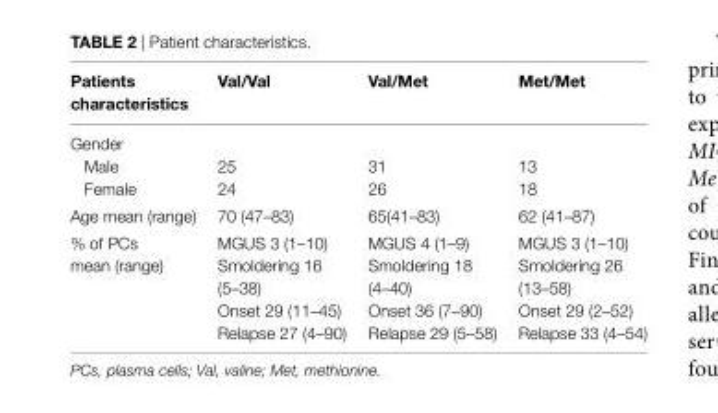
<table><thead><tr><td>Patients characteristics</td><td>Val/Val</td><td>Val/Met</td><td>Met/Met</td></tr></thead><tbody><tr><td colspan="4">Gender</td></tr><tr><td>Male</td><td>25</td><td>31</td><td>13</td></tr><tr><td>Female</td><td>24</td><td>26</td><td>18</td></tr><tr><td>Age mean (range)</td><td>70 (47–83)</td><td>65(41–83)</td><td>62 (41–87)</td></tr><tr><td>% of PCs mean (range)</td><td>MGUS 3 (1–10) Smoldering 16 (5–38) Onset 29 (11–45) Relapse 27 (4–90)</td><td>MGUS 4 (1–9) Smoldering 18 (4–40) Onset 36 (7–90) Relapse 29 (5–58)</td><td>MGUS 3 (1–10) Smoldering 26 (13–58) Onset 29 (2–52) Relapse 33 (4–54)</td></tr></tbody></table>